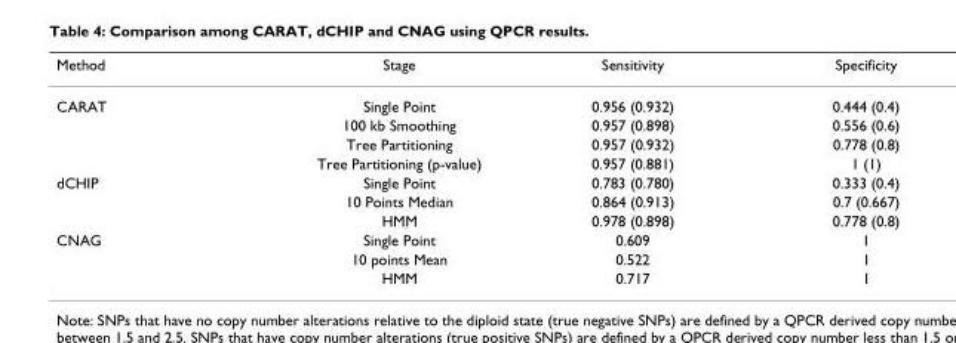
<table><thead><tr><td>Method</td><td>Stage</td><td>Sensitivity</td><td>Specificity</td></tr></thead><tbody><tr><td rowspan="4">CARAT</td><td>Single Point</td><td>0.956 (0.932)</td><td>0.444 (0.4)</td></tr><tr><td>100 kb Smoothing</td><td>0.957 (0.898)</td><td>0.556 (0.6)</td></tr><tr><td>Tree Partitioning</td><td>0.957 (0.932)</td><td>0.778 (0.8)</td></tr><tr><td>Tree Partitioning (p-value)</td><td>0.957 (0.881)</td><td>1 (1)</td></tr><tr><td rowspan="3">dCHIP</td><td>Single Point</td><td>0.783 (0.780)</td><td>0.333 (0.4)</td></tr><tr><td>10 Points Median</td><td>0.864 (0.913)</td><td>0.7 (0.667)</td></tr><tr><td>HMM</td><td>0.978 (0.898)</td><td>0.778 (0.8)</td></tr><tr><td rowspan="3">CNAG</td><td>Single Point</td><td>0.609</td><td>1</td></tr><tr><td>10 points Mean</td><td>0.522</td><td>1</td></tr><tr><td>HMM</td><td>0.717</td><td>1</td></tr></tbody></table>